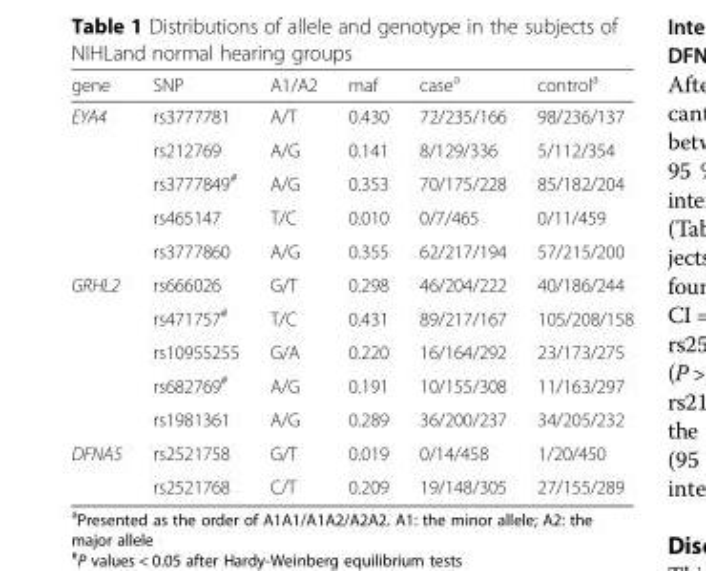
<table><thead><tr><td>gene</td><td>SNP</td><td>A1/A2</td><td>maf</td><td>case<sup>a</sup></td><td>control<sup>a</sup></td></tr></thead><tbody><tr><td rowspan="5">EYA4</td><td>rs3777781</td><td>A/T</td><td>0.430</td><td>72/235/166</td><td>98/236/137</td></tr><tr><td>rs212769</td><td>A/G</td><td>0.141</td><td>8/129/336</td><td>5/112/354</td></tr><tr><td>rs3777849<sup>#</sup></td><td>A/G</td><td>0.353</td><td>70/175/228</td><td>85/182/204</td></tr><tr><td>rs465147</td><td>T/C</td><td>0.010</td><td>0/7/465</td><td>0/11/459</td></tr><tr><td>rs3777860</td><td>A/G</td><td>0.355</td><td>62/217/194</td><td>57/215/200</td></tr><tr><td rowspan="5">GRHL2</td><td>rs666026</td><td>G/T</td><td>0.298</td><td>46/204/222</td><td>40/186/244</td></tr><tr><td>rs471757<sup>#</sup></td><td>T/C</td><td>0.431</td><td>89/217/167</td><td>105/208/158</td></tr><tr><td>rs10955255</td><td>G/A</td><td>0.220</td><td>16/164/292</td><td>23/173/275</td></tr><tr><td>rs682769<sup>#</sup></td><td>A/G</td><td>0.191</td><td>10/155/308</td><td>11/163/297</td></tr><tr><td>rs1981361</td><td>A/G</td><td>0.289</td><td>36/200/237</td><td>34/205/232</td></tr><tr><td rowspan="2">DFNA5</td><td>rs2521758</td><td>G/T</td><td>0.019</td><td>0/14/458</td><td>1/20/450</td></tr><tr><td>rs2521768</td><td>C/T</td><td>0.209</td><td>19/148/305</td><td>27/155/289</td></tr></tbody></table>